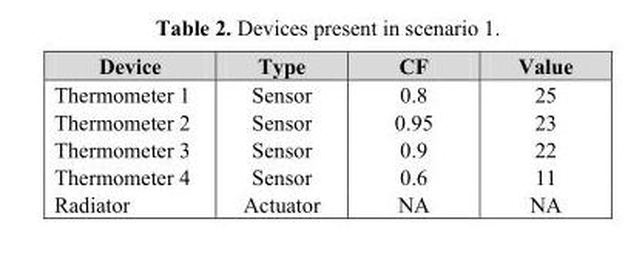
<table><thead><tr><td>Device</td><td>Type</td><td>CF</td><td>Value</td></tr></thead><tbody><tr><td>Thermometer 1</td><td>Sensor</td><td>0.8</td><td>25</td></tr><tr><td>Thermometer 2</td><td>Sensor</td><td>0.95</td><td>23</td></tr><tr><td>Thermometer 3</td><td>Sensor</td><td>0.9</td><td>22</td></tr><tr><td>Thermometer 4</td><td>Sensor</td><td>0.6</td><td>11</td></tr><tr><td>Radiator</td><td>Actuator</td><td>NA</td><td>NA</td></tr></tbody></table>